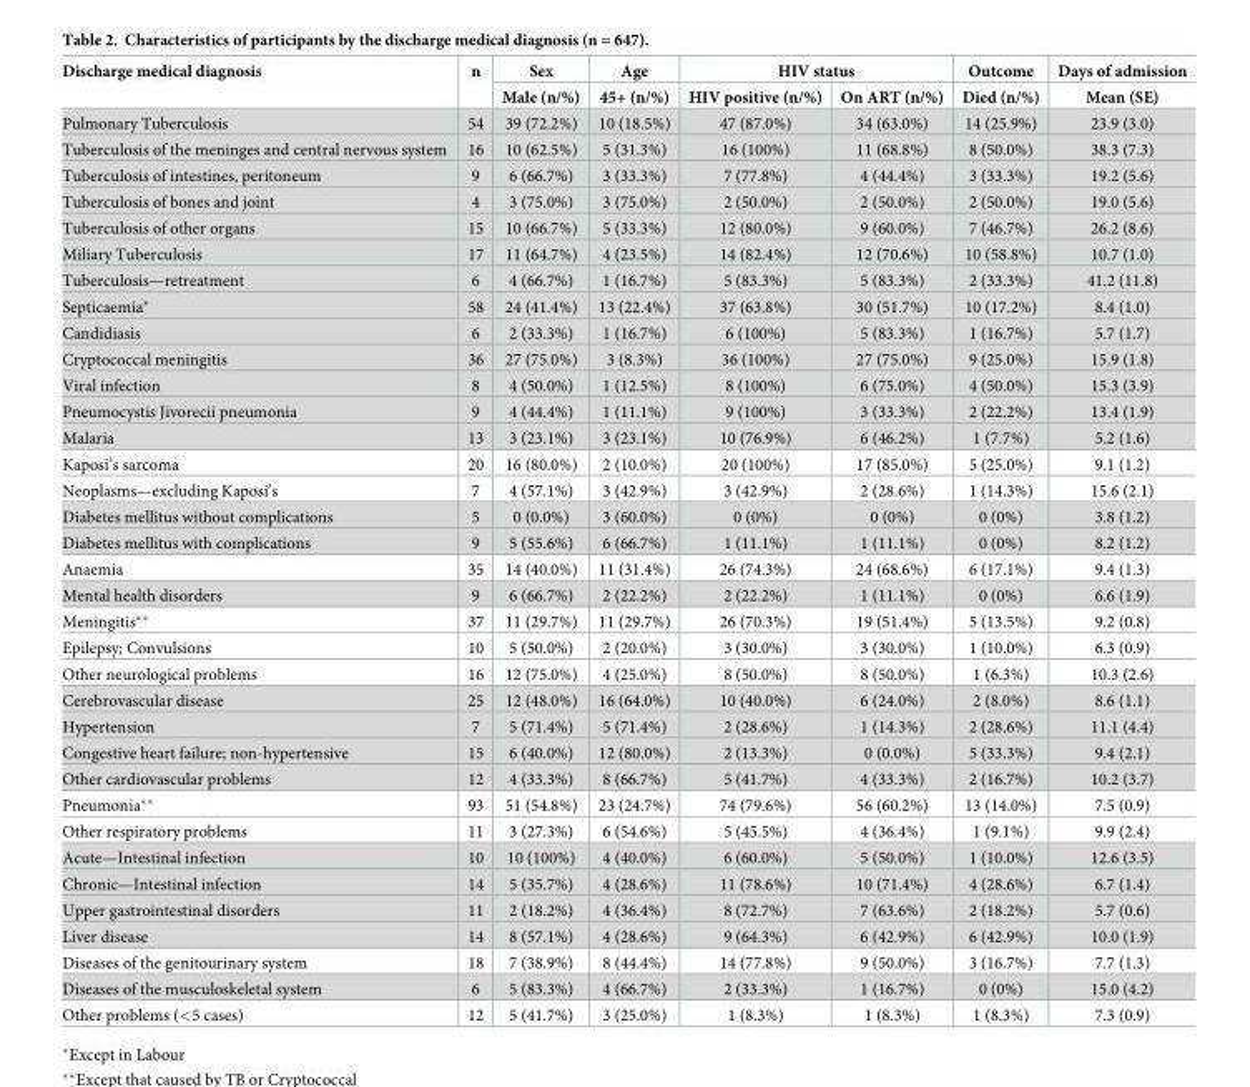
<table><thead><tr><td rowspan="2">Discharge medical diagnosis</td><td rowspan="2">n</td><td rowspan="2">Sex Male (n/%)</td><td rowspan="2">Age 45+ (n/%)</td><td colspan="2">HIV status</td><td rowspan="2">Outcome Died (n/%)</td><td rowspan="2">Days of admission Mean (SE)</td></tr><tr><td>HIV positive (n/%)</td><td>On ART (n/%)</td></tr></thead><tbody><tr><td>Pulmonary Tuberculosis</td><td>54</td><td>39 (72.2%)</td><td>10 (18.5%)</td><td>47 (87.0%)</td><td>34 (63.0%)</td><td>14 (25.9%)</td><td>23.9 (3.0)</td></tr><tr><td>Tuberculosis of the meninges and central nervous system</td><td>16</td><td>10 (62.5%)</td><td>5 (31.3%)</td><td>16 (100%)</td><td>11 (68.8%)</td><td>8 (50.0%)</td><td>38.3 (7.3)</td></tr><tr><td>Tuberculosis of intestines, peritoneum</td><td>9</td><td>6 (66.7%)</td><td>3 (33.3%)</td><td>7 (77.8%)</td><td>4 (44.4%)</td><td>3 (33.3%)</td><td>19.2 (5.6)</td></tr><tr><td>Tuberculosis of bones and joint</td><td>4</td><td>3 (75.0%)</td><td>3 (75.0%)</td><td>2 (50.0%)</td><td>2 (50.0%)</td><td>2 (50.0%)</td><td>19.0 (5.6)</td></tr><tr><td>Tuberculosis of other organs</td><td>15</td><td>10 (66.7%)</td><td>5 (33.3%)</td><td>12 (80.0%)</td><td>9 (60.0%)</td><td>7 (46.7%)</td><td>26.2 (8.6)</td></tr><tr><td>Miliary Tuberculosis</td><td>17</td><td>11 (64.7%)</td><td>4 (23.5%)</td><td>14 (82.4%)</td><td>12 (70.6%)</td><td>10 (58.8%)</td><td>10.7 (1.0)</td></tr><tr><td>Tuberculosis—retreatment</td><td>6</td><td>4 (66.7%)</td><td>1 (16.7%)</td><td>5 (83.3%)</td><td>5 (83.3%)</td><td>2 (33.3%)</td><td>41.2 (11.8)</td></tr><tr><td>Septicaemia*</td><td>58</td><td>24 (41.4%)</td><td>13 (22.4%)</td><td>37 (63.8%)</td><td>30 (51.7%)</td><td>10 (17.2%)</td><td>8.4 (1.0)</td></tr><tr><td>Candidiasis</td><td>6</td><td>2 (33.3%)</td><td>1 (16.7%)</td><td>6 (100%)</td><td>5 (83.3%)</td><td>1 (16.7%)</td><td>5.7 (1.7)</td></tr><tr><td>Cryptococcal meningitis</td><td>36</td><td>27 (75.0%)</td><td>3 (8.3%)</td><td>36 (100%)</td><td>27 (75.0%)</td><td>9 (25.0%)</td><td>15.9 (1.8)</td></tr><tr><td>Viral infection</td><td>8</td><td>4 (50.0%)</td><td>1 (12.5%)</td><td>8 (100%)</td><td>6 (75.0%)</td><td>4 (50.0%)</td><td>15.3 (3.9)</td></tr><tr><td>Pneumocystis Jivorecii pneumonia</td><td>9</td><td>4 (44.4%)</td><td>1 (11.1%)</td><td>9 (100%)</td><td>3 (33.3%)</td><td>2 (22.2%)</td><td>13.4 (1.9)</td></tr><tr><td>Malaria</td><td>13</td><td>3 (23.1%)</td><td>3 (23.1%)</td><td>10 (76.9%)</td><td>6 (46.2%)</td><td>1 (7.7%)</td><td>5.2 (1.6)</td></tr><tr><td>Kaposi’s sarcoma</td><td>20</td><td>16 (80.0%)</td><td>2 (10.0%)</td><td>20 (100%)</td><td>17 (85.0%)</td><td>5 (25.0%)</td><td>9.1 (1.2)</td></tr><tr><td>Neoplasms—excluding Kaposi’s</td><td>7</td><td>4 (57.1%)</td><td>3 (42.9%)</td><td>3 (42.9%)</td><td>2 (28.6%)</td><td>1 (14.3%)</td><td>15.6 (2.1)</td></tr><tr><td>Diabetes mellitus without complications</td><td>5</td><td>0 (0.0%)</td><td>3 (60.0%)</td><td>0 (0%)</td><td>0 (0%)</td><td>0 (0%)</td><td>3.8 (1.2)</td></tr><tr><td>Diabetes mellitus with complications</td><td>9</td><td>5 (55.6%)</td><td>6 (66.7%)</td><td>1 (11.1%)</td><td>1 (11.1%)</td><td>0 (0%)</td><td>8.2 (1.2)</td></tr><tr><td>Anaemia</td><td>35</td><td>14 (40.0%)</td><td>11 (31.4%)</td><td>26 (74.3%)</td><td>24 (68.6%)</td><td>6 (17.1%)</td><td>9.4 (1.3)</td></tr><tr><td>Mental health disorders</td><td>9</td><td>6 (66.7%)</td><td>2 (22.2%)</td><td>2 (22.2%)</td><td>1 (11.1%)</td><td>0 (0%)</td><td>6.6 (1.9)</td></tr><tr><td>Meningitis**</td><td>37</td><td>11 (29.7%)</td><td>11 (29.7%)</td><td>26 (70.3%)</td><td>19 (51.4%)</td><td>5 (13.5%)</td><td>9.2 (0.8)</td></tr><tr><td>Epilepsy; Convulsions</td><td>10</td><td>5 (50.0%)</td><td>2 (20.0%)</td><td>3 (30.0%)</td><td>3 (30.0%)</td><td>1 (10.0%)</td><td>6.3 (0.9)</td></tr><tr><td>Other neurological problems</td><td>16</td><td>12 (75.0%)</td><td>4 (25.0%)</td><td>8 (50.0%)</td><td>8 (50.0%)</td><td>1 (6.3%)</td><td>10.3 (2.6)</td></tr><tr><td>Cerebrovascular disease</td><td>25</td><td>12 (48.0%)</td><td>16 (64.0%)</td><td>10 (40.0%)</td><td>6 (24.0%)</td><td>2 (8.0%)</td><td>8.6 (1.1)</td></tr><tr><td>Hypertension</td><td>7</td><td>5 (71.4%)</td><td>5 (71.4%)</td><td>2 (28.6%)</td><td>1 (14.3%)</td><td>2 (28.6%)</td><td>11.1 (4.4)</td></tr><tr><td>Congestive heart failure; non-hypertensive</td><td>15</td><td>6 (40.0%)</td><td>12 (80.0%)</td><td>2 (13.3%)</td><td>0 (0.0%)</td><td>5 (33.3%)</td><td>9.4 (2.1)</td></tr><tr><td>Other cardiovascular problems</td><td>12</td><td>4 (33.3%)</td><td>8 (66.7%)</td><td>5 (41.7%)</td><td>4 (33.3%)</td><td>2 (16.7%)</td><td>10.2 (3.7)</td></tr><tr><td>Pneumonia**</td><td>93</td><td>51 (54.8%)</td><td>23 (24.7%)</td><td>74 (79.6%)</td><td>56 (60.2%)</td><td>13 (14.0%)</td><td>7.5 (0.9)</td></tr><tr><td>Other respiratory problems</td><td>11</td><td>3 (27.3%)</td><td>6 (54.6%)</td><td>5 (45.5%)</td><td>4 (36.4%)</td><td>1 (9.1%)</td><td>9.9 (2.4)</td></tr><tr><td>Acute—Intestinal infection</td><td>10</td><td>10 (100%)</td><td>4 (40.0%)</td><td>6 (60.0%)</td><td>5 (50.0%)</td><td>1 (10.0%)</td><td>12.6 (3.5)</td></tr><tr><td>Chronic—Intestinal infection</td><td>14</td><td>5 (35.7%)</td><td>4 (28.6%)</td><td>11 (78.6%)</td><td>10 (71.4%)</td><td>4 (28.6%)</td><td>6.7 (1.4)</td></tr><tr><td>Upper gastrointestinal disorders</td><td>11</td><td>2 (18.2%)</td><td>4 (36.4%)</td><td>8 (72.7%)</td><td>7 (63.6%)</td><td>2 (18.2%)</td><td>5.7 (0.6)</td></tr><tr><td>Liver disease</td><td>14</td><td>8 (57.1%)</td><td>4 (28.6%)</td><td>9 (64.3%)</td><td>6 (42.9%)</td><td>6 (42.9%)</td><td>10.0 (1.9)</td></tr><tr><td>Diseases of the genitourinary system</td><td>18</td><td>7 (38.9%)</td><td>8 (44.4%)</td><td>14 (77.8%)</td><td>9 (50.0%)</td><td>3 (16.7%)</td><td>7.7 (1.3)</td></tr><tr><td>Diseases of the musculoskeletal system</td><td>6</td><td>5 (83.3%)</td><td>4 (66.7%)</td><td>2 (33.3%)</td><td>1 (16.7%)</td><td>0 (0%)</td><td>15.0 (4.2)</td></tr><tr><td>Other problems (&lt;5 cases)</td><td>12</td><td>5 (41.7%)</td><td>3 (25.0%)</td><td>1 (8.3%)</td><td>1 (8.3%)</td><td>1 (8.3%)</td><td>7.3 (0.9)</td></tr></tbody></table>